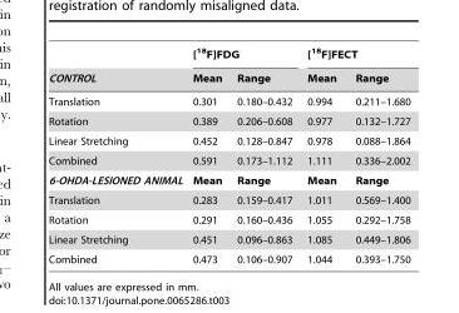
<table><thead><tr><td rowspan="2">CONTROL</td><td colspan="2">[<sup>18</sup>F]FDG</td><td colspan="2">[<sup>18</sup>F]FECT</td></tr><tr><td>Mean</td><td>Range</td><td>Mean</td><td>Range</td></tr></thead><tbody><tr><td>Translation</td><td>0.301</td><td>0.180–0.432</td><td>0.994</td><td>0.211–1.680</td></tr><tr><td>Rotation</td><td>0.389</td><td>0.206–0.608</td><td>0.977</td><td>0.132–1.727</td></tr><tr><td>Linear Stretching</td><td>0.452</td><td>0.128–0.847</td><td>0.978</td><td>0.088–1.864</td></tr><tr><td>Combined</td><td>0.591</td><td>0.173–1.112</td><td>1.111</td><td>0.336–2.002</td></tr><tr><td>6-OHDA-LESIONED ANIMAL</td><td>Mean</td><td>Range</td><td>Mean</td><td>Range</td></tr><tr><td>Translation</td><td>0.283</td><td>0.159–0.417</td><td>1.011</td><td>0.569–1.400</td></tr><tr><td>Rotation</td><td>0.291</td><td>0.160–0.436</td><td>1.055</td><td>0.292–1.758</td></tr><tr><td>Linear Stretching</td><td>0.451</td><td>0.096–0.863</td><td>1.085</td><td>0.449–1.806</td></tr><tr><td>Combined</td><td>0.473</td><td>0.106–0.907</td><td>1.044</td><td>0.393–1.750</td></tr></tbody></table>